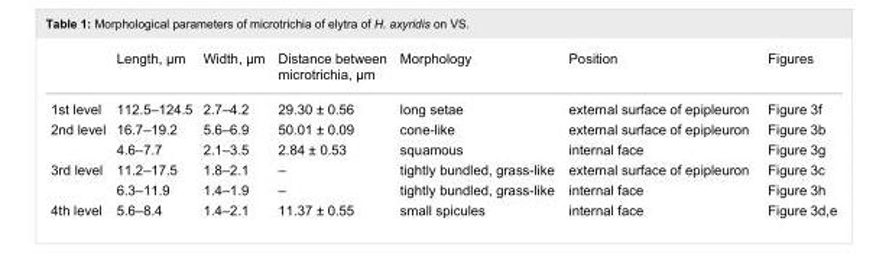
<table><thead><tr><td></td><td>Length, μm</td><td>Width, μm</td><td>Distance between microtrichia, μm</td><td>Morphology</td><td>Position</td><td>Figures</td></tr></thead><tbody><tr><td>1st level</td><td>112.5–124.5</td><td>2.7–4.2</td><td>29.30 ± 0.56</td><td>long setae</td><td>external surface of epipleuron</td><td>Figure 3f</td></tr><tr><td rowspan="2">2nd level</td><td>16.7–19.2</td><td>5.6–6.9</td><td>50.01 ± 0.09</td><td>cone-like</td><td>external surface of epipleuron</td><td>Figure 3b</td></tr><tr><td>4.6–7.7</td><td>2.1–3.5</td><td>2.84 ± 0.53</td><td>squamous</td><td>internal face</td><td>Figure 3g</td></tr><tr><td rowspan="2">3rd level</td><td>11.2–17.5</td><td>1.8–2.1</td><td>–</td><td>tightly bundled, grass-like</td><td>external surface of epipleuron</td><td>Figure 3c</td></tr><tr><td>6.3–11.9</td><td>1.4–1.9</td><td>–</td><td>tightly bundled, grass-like</td><td>internal face</td><td>Figure 3h</td></tr><tr><td>4th level</td><td>5.6–8.4</td><td>1.4–2.1</td><td>11.37 ± 0.55</td><td>small spicules</td><td>internal face</td><td>Figure 3d,e</td></tr></tbody></table>